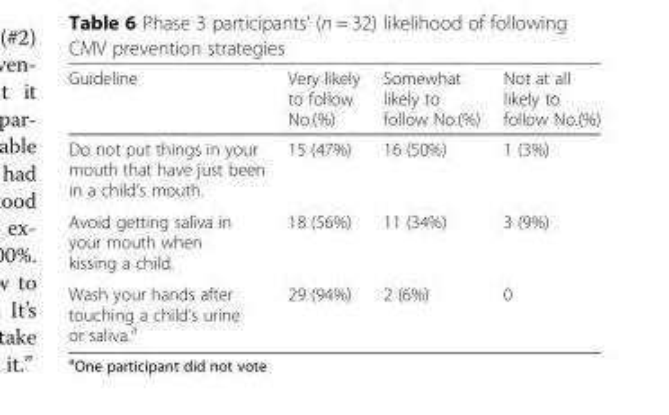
<table><thead><tr><td>Guideline</td><td>Very likely to follow No.(%)</td><td>Somewhat likely to follow No.(%)</td><td>Not at all likely to follow No.(%)</td></tr></thead><tbody><tr><td>Do not put things in your mouth that have just been in a child’s mouth.</td><td>15 (47%)</td><td>16 (50%)</td><td>1 (3%)</td></tr><tr><td>Avoid getting saliva in your mouth when kissing a child.</td><td>18 (56%)</td><td>11 (34%)</td><td>3 (9%)</td></tr><tr><td>Wash your hands after touching a child’s urine or saliva.<sup>a</sup></td><td>29 (94%)</td><td>2 (6%)</td><td>0</td></tr></tbody></table>